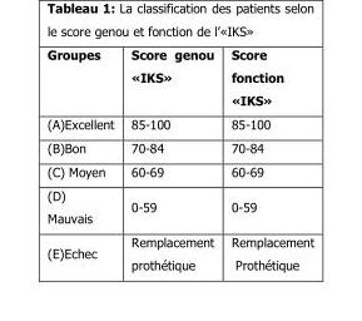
<table><thead><tr><td>Groupes</td><td>Score genou «IKS»</td><td>Score fonction «IKS»</td></tr></thead><tbody><tr><td>(A)Excellent</td><td>85-100</td><td>85-100</td></tr><tr><td>(B)Bon</td><td>70-84</td><td>70-84</td></tr><tr><td>(C) Moyen</td><td>60-69</td><td>60-69</td></tr><tr><td>(D) Mauvais</td><td>0-59</td><td>0-59</td></tr><tr><td>(E)Echec</td><td>Remplacement prothétique</td><td>Remplacement Prothétique</td></tr></tbody></table>